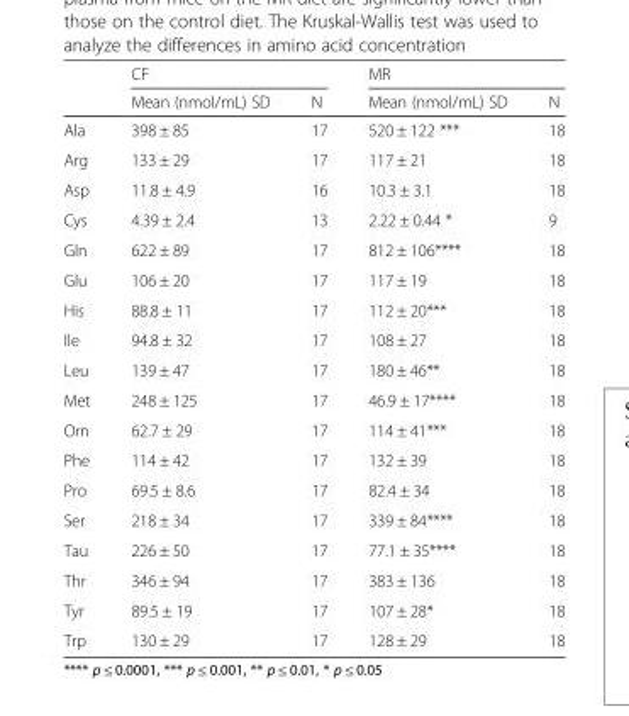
<table><thead><tr><td rowspan="2"></td><td colspan="2">CF</td><td colspan="2">MR</td></tr><tr><td>Mean (nmol/mL) SD</td><td>N</td><td>Mean (nmol/mL) SD</td><td>N</td></tr></thead><tbody><tr><td>Ala</td><td>398 ± 85</td><td>17</td><td>520 ± 122 ***</td><td>18</td></tr><tr><td>Arg</td><td>133 ± 29</td><td>17</td><td>117 ± 21</td><td>18</td></tr><tr><td>Asp</td><td>11.8 ± 4.9</td><td>16</td><td>10.3 ± 3.1</td><td>18</td></tr><tr><td>Cys</td><td>4.39 ± 2.4</td><td>13</td><td>2.22 ± 0.44 *</td><td>9</td></tr><tr><td>Gln</td><td>622 ± 89</td><td>17</td><td>812 ± 106****</td><td>18</td></tr><tr><td>Glu</td><td>106 ± 20</td><td>17</td><td>117 ± 19</td><td>18</td></tr><tr><td>His</td><td>88.8 ± 11</td><td>17</td><td>112 ± 20***</td><td>18</td></tr><tr><td>Ile</td><td>94.8 ± 32</td><td>17</td><td>108 ± 27</td><td>18</td></tr><tr><td>Leu</td><td>139 ± 47</td><td>17</td><td>180 ± 46**</td><td>18</td></tr><tr><td>Met</td><td>248 ± 125</td><td>17</td><td>46.9 ± 17****</td><td>18</td></tr><tr><td>Orn</td><td>62.7 ± 29</td><td>17</td><td>114 ± 41***</td><td>18</td></tr><tr><td>Phe</td><td>114 ± 42</td><td>17</td><td>132 ± 39</td><td>18</td></tr><tr><td>Pro</td><td>69.5 ± 8.6</td><td>17</td><td>82.4 ± 34</td><td>18</td></tr><tr><td>Ser</td><td>218 ± 34</td><td>17</td><td>339 ± 84****</td><td>18</td></tr><tr><td>Tau</td><td>226 ± 50</td><td>17</td><td>77.1 ± 35****</td><td>18</td></tr><tr><td>Thr</td><td>346 ± 94</td><td>17</td><td>383 ± 136</td><td>18</td></tr><tr><td>Tyr</td><td>89.5 ± 19</td><td>17</td><td>107 ± 28*</td><td>18</td></tr><tr><td>Trp</td><td>130 ± 29</td><td>17</td><td>128 ± 29</td><td>18</td></tr></tbody></table>